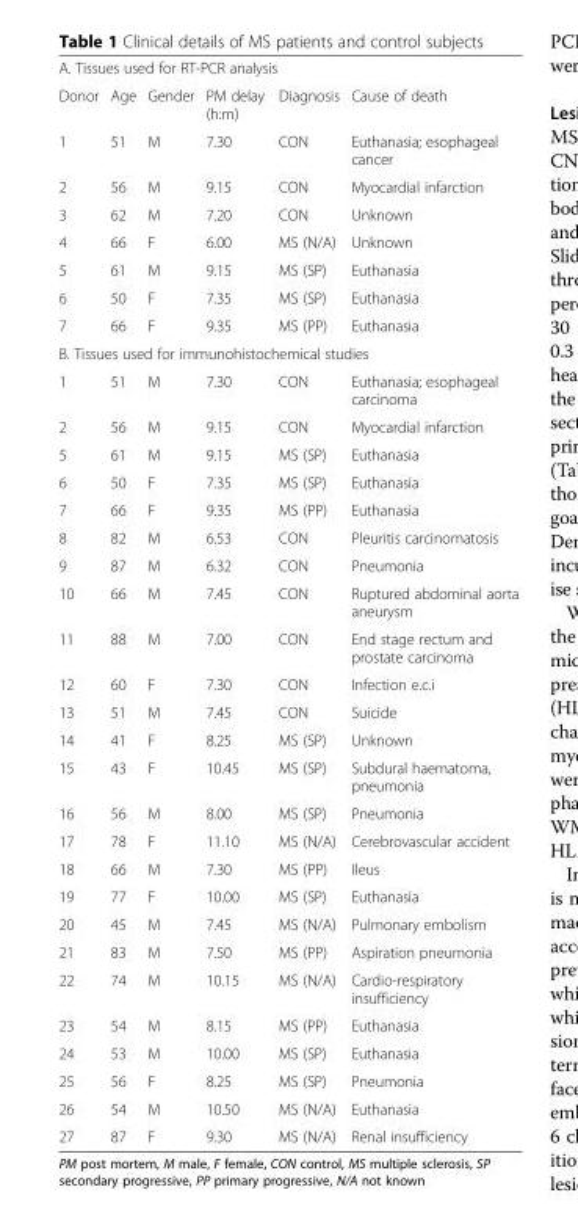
<table><tbody><tr><td colspan="6">A. Tissues used for RT-PCR analysis</td></tr><tr><td>Donor</td><td>Age</td><td>Gender</td><td>PM delay (h:m)</td><td>Diagnosis</td><td>Cause of death</td></tr><tr><td>1</td><td>51</td><td>M</td><td>7.30</td><td>CON</td><td>Euthanasia; esophageal cancer</td></tr><tr><td>2</td><td>56</td><td>M</td><td>9.15</td><td>CON</td><td>Myocardial infarction</td></tr><tr><td>3</td><td>62</td><td>M</td><td>7.20</td><td>CON</td><td>Unknown</td></tr><tr><td>4</td><td>66</td><td>F</td><td>6.00</td><td>MS (N/A)</td><td>Unknown</td></tr><tr><td>5</td><td>61</td><td>M</td><td>9.15</td><td>MS (SP)</td><td>Euthanasia</td></tr><tr><td>6</td><td>50</td><td>F</td><td>7.35</td><td>MS (SP)</td><td>Euthanasia</td></tr><tr><td>7</td><td>66</td><td>F</td><td>9.35</td><td>MS (PP)</td><td>Euthanasia</td></tr><tr><td colspan="6">B. Tissues used for immunohistochemical studies</td></tr><tr><td>1</td><td>51</td><td>M</td><td>7.30</td><td>CON</td><td>Euthanasia; esophageal carcinoma</td></tr><tr><td>2</td><td>56</td><td>M</td><td>9.15</td><td>CON</td><td>Myocardial infarction</td></tr><tr><td>5</td><td>61</td><td>M</td><td>9.15</td><td>MS (SP)</td><td>Euthanasia</td></tr><tr><td>6</td><td>50</td><td>F</td><td>7.35</td><td>MS (SP)</td><td>Euthanasia</td></tr><tr><td>7</td><td>66</td><td>F</td><td>9.35</td><td>MS (PP)</td><td>Euthanasia</td></tr><tr><td>8</td><td>82</td><td>M</td><td>6.53</td><td>CON</td><td>Pleuritis carcinomatosis</td></tr><tr><td>9</td><td>87</td><td>M</td><td>6.32</td><td>CON</td><td>Pneumonia</td></tr><tr><td>10</td><td>66</td><td>M</td><td>7.45</td><td>CON</td><td>Ruptured abdominal aorta aneurysm</td></tr><tr><td>11</td><td>88</td><td>M</td><td>7.00</td><td>CON</td><td>End stage rectum and prostate carcinoma</td></tr><tr><td>12</td><td>60</td><td>F</td><td>7.30</td><td>CON</td><td>Infection e.c.i</td></tr><tr><td>13</td><td>51</td><td>M</td><td>7.45</td><td>CON</td><td>Suicide</td></tr><tr><td>14</td><td>41</td><td>F</td><td>8.25</td><td>MS (SP)</td><td>Unknown</td></tr><tr><td>15</td><td>43</td><td>F</td><td>10.45</td><td>MS (SP)</td><td>Subdural haematoma, pneumonia</td></tr><tr><td>16</td><td>56</td><td>M</td><td>8.00</td><td>MS (SP)</td><td>Pneumonia</td></tr><tr><td>17</td><td>78</td><td>F</td><td>11.10</td><td>MS (N/A)</td><td>Cerebrovascular accident</td></tr><tr><td>18</td><td>66</td><td>M</td><td>7.30</td><td>MS (PP)</td><td>Ileus</td></tr><tr><td>19</td><td>77</td><td>F</td><td>10.00</td><td>MS (SP)</td><td>Euthanasia</td></tr><tr><td>20</td><td>45</td><td>M</td><td>7.45</td><td>MS (N/A)</td><td>Pulmonary embolism</td></tr><tr><td>21</td><td>83</td><td>M</td><td>7.50</td><td>MS (PP)</td><td>Aspiration pneumonia</td></tr><tr><td>22</td><td>74</td><td>M</td><td>10.15</td><td>MS (N/A)</td><td>Cardio-respiratory insufficiency</td></tr><tr><td>23</td><td>54</td><td>M</td><td>8.15</td><td>MS (PP)</td><td>Euthanasia</td></tr><tr><td>24</td><td>53</td><td>M</td><td>10.00</td><td>MS (SP)</td><td>Euthanasia</td></tr><tr><td>25</td><td>56</td><td>F</td><td>8.25</td><td>MS (SP)</td><td>Pneumonia</td></tr><tr><td>26</td><td>54</td><td>M</td><td>10.50</td><td>MS (N/A)</td><td>Euthanasia</td></tr><tr><td>27</td><td>87</td><td>F</td><td>9.30</td><td>MS (N/A)</td><td>Renal insufficiency</td></tr></tbody></table>